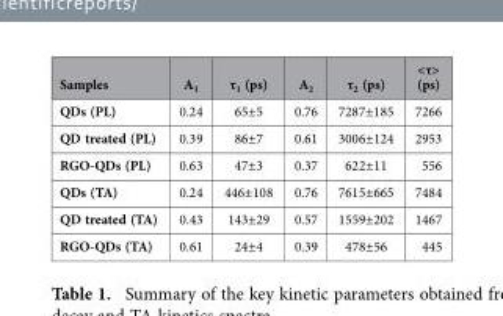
<table><thead><tr><td>Samples</td><td>A<sub>1</sub></td><td>τ<sub>1</sub> (ps)</td><td>A<sub>2</sub></td><td>τ<sub>2</sub> (ps)</td><td>&lt;τ&gt; (ps)</td></tr></thead><tbody><tr><td>QDs (PL)</td><td>0.24</td><td>65±5</td><td>0.76</td><td>7287±185</td><td>7266</td></tr><tr><td>QD treated (PL)</td><td>0.39</td><td>86±7</td><td>0.61</td><td>3006±124</td><td>2953</td></tr><tr><td>RGO-QDs (PL)</td><td>0.63</td><td>47±3</td><td>0.37</td><td>622±11</td><td>556</td></tr><tr><td>QDs (TA)</td><td>0.24</td><td>446±108</td><td>0.76</td><td>7615±665</td><td>7484</td></tr><tr><td>QD treated (TA)</td><td>0.43</td><td>143±29</td><td>0.57</td><td>1559±202</td><td>1467</td></tr><tr><td>RGO-QDs (TA)</td><td>0.61</td><td>24±4</td><td>0.39</td><td>478±56</td><td>445</td></tr></tbody></table>